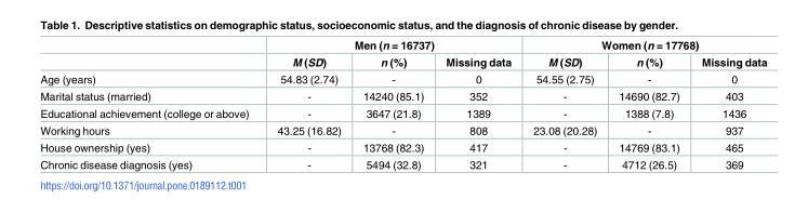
<table><thead><tr><td rowspan="2"></td><td colspan="3">Men (n = 16737)</td><td colspan="3">Women (n = 17768)</td></tr><tr><td>M (SD)</td><td>n (%)</td><td>Missing data</td><td>M (SD)</td><td>n (%)</td><td>Missing data</td></tr></thead><tbody><tr><td>Age (years)</td><td>54.83 (2.74)</td><td>-</td><td>0</td><td>54.55 (2.75)</td><td>-</td><td>0</td></tr><tr><td>Marital status (married)</td><td>-</td><td>14240 (85.1)</td><td>352</td><td>-</td><td>14690 (82.7)</td><td>403</td></tr><tr><td>Educational achievement (college or above)</td><td>-</td><td>3647 (21.8)</td><td>1389</td><td>-</td><td>1388 (7.8)</td><td>1436</td></tr><tr><td>Working hours</td><td>43.25 (16.82)</td><td>-</td><td>808</td><td>23.08 (20.28)</td><td>-</td><td>937</td></tr><tr><td>House ownership (yes)</td><td>-</td><td>13768 (82.3)</td><td>417</td><td>-</td><td>14769 (83.1)</td><td>465</td></tr><tr><td>Chronic disease diagnosis (yes)</td><td>-</td><td>5494 (32.8)</td><td>321</td><td>-</td><td>4712 (26.5)</td><td>369</td></tr></tbody></table>